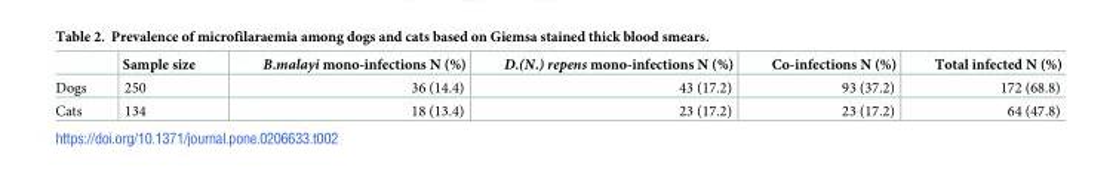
<table><thead><tr><td></td><td>Sample size</td><td>B.malayi mono-infections N (%)</td><td>D.(N.) repens mono-infections N (%)</td><td>Co-infections N (%)</td><td>Total infected N (%)</td></tr></thead><tbody><tr><td>Dogs</td><td>250</td><td>36 (14.4)</td><td>43 (17.2)</td><td>93 (37.2)</td><td>172 (68.8)</td></tr><tr><td>Cats</td><td>134</td><td>18 (13.4)</td><td>23 (17.2)</td><td>23 (17.2)</td><td>64 (47.8)</td></tr></tbody></table>